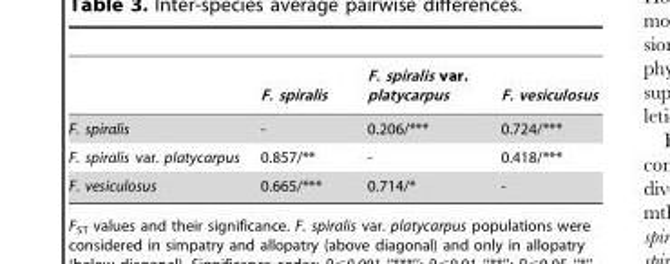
<table><thead><tr><td></td><td>F. spiralis</td><td>F. spiralis var. platycarpus</td><td>F. vesiculosus</td></tr></thead><tbody><tr><td>F. spiralis</td><td>-</td><td>0.206/***</td><td>0.724/***</td></tr><tr><td>F. spiralis var. platycarpus</td><td>0.857/**</td><td>-</td><td>0.418/***</td></tr><tr><td>F. vesiculosus</td><td>0.665/***</td><td>0.714/*</td><td>-</td></tr></tbody></table>